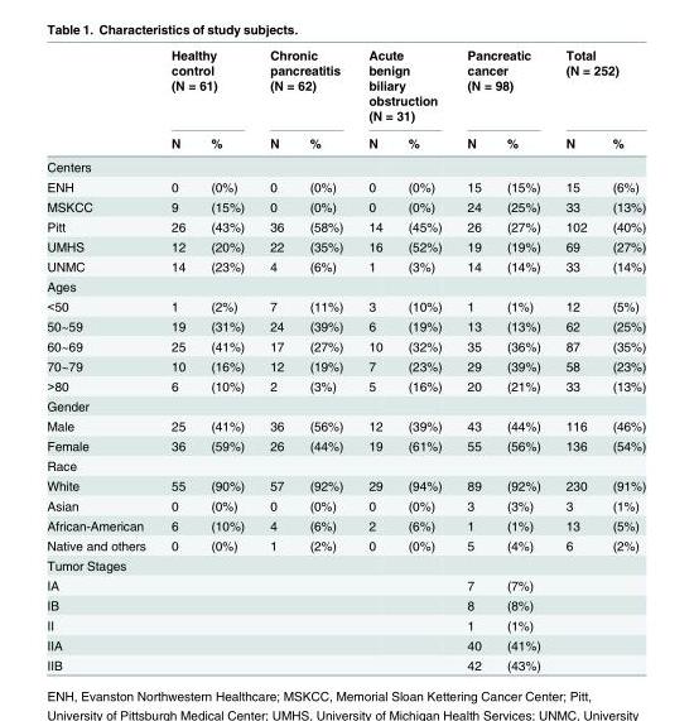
<table><thead><tr><td rowspan="2"></td><td colspan="2">Healthy control (N = 61)</td><td colspan="2">Chronic pancreatitis (N = 62)</td><td colspan="2">Acute benign biliary obstruction (N = 31)</td><td colspan="2">Pancreatic cancer (N = 98)</td><td colspan="2">Total (N = 252)</td></tr><tr><td>N</td><td>%</td><td>N</td><td>%</td><td>N</td><td>%</td><td>N</td><td>%</td><td>N</td><td>%</td></tr></thead><tbody><tr><td colspan="11">Centers</td></tr><tr><td>ENH</td><td>0</td><td>(0%)</td><td>0</td><td>(0%)</td><td>0</td><td>(0%)</td><td>15</td><td>(15%)</td><td>15</td><td>(6%)</td></tr><tr><td>MSKCC</td><td>9</td><td>(15%)</td><td>0</td><td>(0%)</td><td>0</td><td>(0%)</td><td>24</td><td>(25%)</td><td>33</td><td>(13%)</td></tr><tr><td>Pitt</td><td>26</td><td>(43%)</td><td>36</td><td>(58%)</td><td>14</td><td>(45%)</td><td>26</td><td>(27%)</td><td>102</td><td>(40%)</td></tr><tr><td>UMHS</td><td>12</td><td>(20%)</td><td>22</td><td>(35%)</td><td>16</td><td>(52%)</td><td>19</td><td>(19%)</td><td>69</td><td>(27%)</td></tr><tr><td>UNMC</td><td>14</td><td>(23%)</td><td>4</td><td>(6%)</td><td>1</td><td>(3%)</td><td>14</td><td>(14%)</td><td>33</td><td>(14%)</td></tr><tr><td colspan="11">Ages</td></tr><tr><td>&lt;50</td><td>1</td><td>(2%)</td><td>7</td><td>(11%)</td><td>3</td><td>(10%)</td><td>1</td><td>(1%)</td><td>12</td><td>(5%)</td></tr><tr><td>50~59</td><td>19</td><td>(31%)</td><td>24</td><td>(39%)</td><td>6</td><td>(19%)</td><td>13</td><td>(13%)</td><td>62</td><td>(25%)</td></tr><tr><td>60~69</td><td>25</td><td>(41%)</td><td>17</td><td>(27%)</td><td>10</td><td>(32%)</td><td>35</td><td>(36%)</td><td>87</td><td>(35%)</td></tr><tr><td>70~79</td><td>10</td><td>(16%)</td><td>12</td><td>(19%)</td><td>7</td><td>(23%)</td><td>29</td><td>(39%)</td><td>58</td><td>(23%)</td></tr><tr><td>&gt;80</td><td>6</td><td>(10%)</td><td>2</td><td>(3%)</td><td>5</td><td>(16%)</td><td>20</td><td>(21%)</td><td>33</td><td>(13%)</td></tr><tr><td colspan="11">Gender</td></tr><tr><td>Male</td><td>25</td><td>(41%)</td><td>36</td><td>(56%)</td><td>12</td><td>(39%)</td><td>43</td><td>(44%)</td><td>116</td><td>(46%)</td></tr><tr><td>Female</td><td>36</td><td>(59%)</td><td>26</td><td>(44%)</td><td>19</td><td>(61%)</td><td>55</td><td>(56%)</td><td>136</td><td>(54%)</td></tr><tr><td colspan="11">Race</td></tr><tr><td>White</td><td>55</td><td>(90%)</td><td>57</td><td>(92%)</td><td>29</td><td>(94%)</td><td>89</td><td>(92%)</td><td>230</td><td>(91%)</td></tr><tr><td>Asian</td><td>0</td><td>(0%)</td><td>0</td><td>(0%)</td><td>0</td><td>(0%)</td><td>3</td><td>(3%)</td><td>3</td><td>(1%)</td></tr><tr><td>African-American</td><td>6</td><td>(10%)</td><td>4</td><td>(6%)</td><td>2</td><td>(6%)</td><td>1</td><td>(1%)</td><td>13</td><td>(5%)</td></tr><tr><td>Native and others</td><td>0</td><td>(0%)</td><td>1</td><td>(2%)</td><td>0</td><td>(0%)</td><td>5</td><td>(4%)</td><td>6</td><td>(2%)</td></tr><tr><td colspan="11">Tumor Stages</td></tr><tr><td>IA</td><td></td><td></td><td></td><td></td><td></td><td></td><td>7</td><td>(7%)</td><td></td><td></td></tr><tr><td>IB</td><td></td><td></td><td></td><td></td><td></td><td></td><td>8</td><td>(8%)</td><td></td><td></td></tr><tr><td>II</td><td></td><td></td><td></td><td></td><td></td><td></td><td>1</td><td>(1%)</td><td></td><td></td></tr><tr><td>IIA</td><td></td><td></td><td></td><td></td><td></td><td></td><td>40</td><td>(41%)</td><td></td><td></td></tr><tr><td>IIB</td><td></td><td></td><td></td><td></td><td></td><td></td><td>42</td><td>(43%)</td><td></td><td></td></tr></tbody></table>